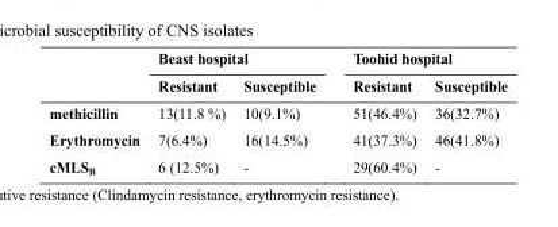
<table><thead><tr><td rowspan="2"></td><td colspan="2">Beast hospital</td><td colspan="2">Toohid hospital</td></tr><tr><td>Resistant</td><td>Susceptible</td><td>Resistant</td><td>Susceptible</td></tr></thead><tbody><tr><td>methicillin</td><td>13(11.8 %)</td><td>10(9.1%)</td><td>51(46.4%)</td><td>36(32.7%)</td></tr><tr><td>Erythromycin</td><td>7(6.4%)</td><td>16(14.5%)</td><td>41(37.3%)</td><td>46(41.8%)</td></tr><tr><td>cMLS<sub>B</sub></td><td>6 (12.5%)</td><td>-</td><td>29(60.4%)</td><td>-</td></tr></tbody></table>